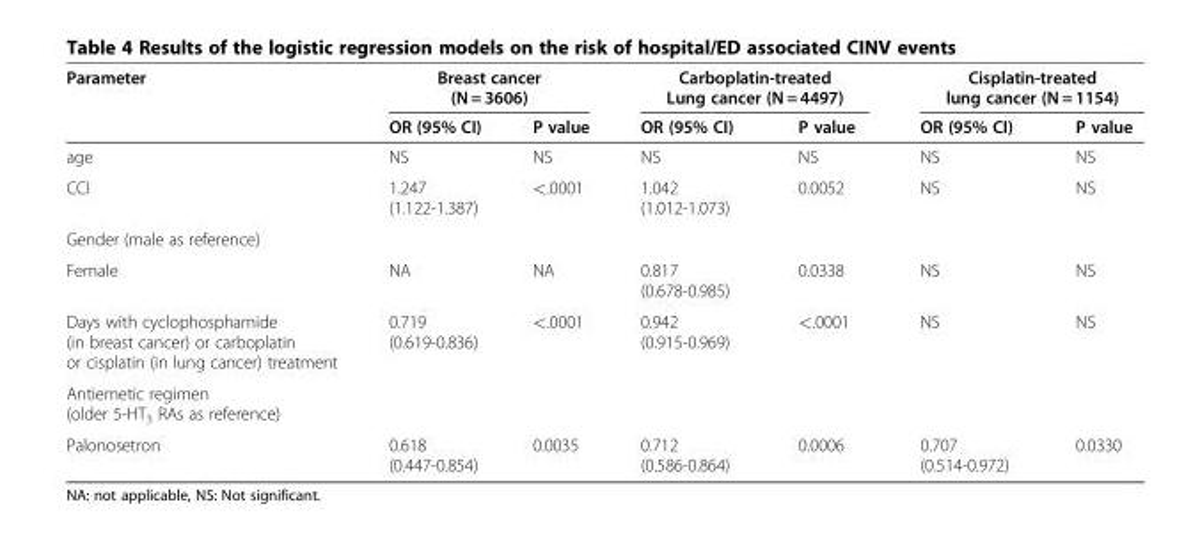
<table><thead><tr><td rowspan="2">Parameter</td><td colspan="2">Breast cancer (N = 3606)</td><td colspan="2">Carboplatin-treated Lung cancer (N = 4497)</td><td colspan="2">Cisplatin-treated lung cancer (N = 1154)</td></tr><tr><td>OR (95% CI)</td><td>P value</td><td>OR (95% CI)</td><td>P value</td><td>OR (95% CI)</td><td>P value</td></tr></thead><tbody><tr><td>age</td><td>NS</td><td>NS</td><td>NS</td><td>NS</td><td>NS</td><td>NS</td></tr><tr><td>CCI</td><td>1.247 (1.122-1.387)</td><td>&lt;.0001</td><td>1.042 (1.012-1.073)</td><td>0.0052</td><td>NS</td><td>NS</td></tr><tr><td colspan="7">Gender (male as reference)</td></tr><tr><td>Female</td><td>NA</td><td>NA</td><td>0.817 (0.678-0.985)</td><td>0.0338</td><td>NS</td><td>NS</td></tr><tr><td>Days with cyclophosphamide (in breast cancer) or carboplatin or cisplatin (in lung cancer) treatment</td><td>0.719 (0.619-0.836)</td><td>&lt;.0001</td><td>0.942 (0.915-0.969)</td><td>&lt;.0001</td><td>NS</td><td>NS</td></tr><tr><td colspan="7">Antiemetic regimen (older 5-HT<sub>3</sub> RAs as reference)</td></tr><tr><td>Palonosetron</td><td>0.618 (0.447-0.854)</td><td>0.0035</td><td>0.712 (0.586-0.864)</td><td>0.0006</td><td>0.707 (0.514-0.972)</td><td>0.0330</td></tr></tbody></table>